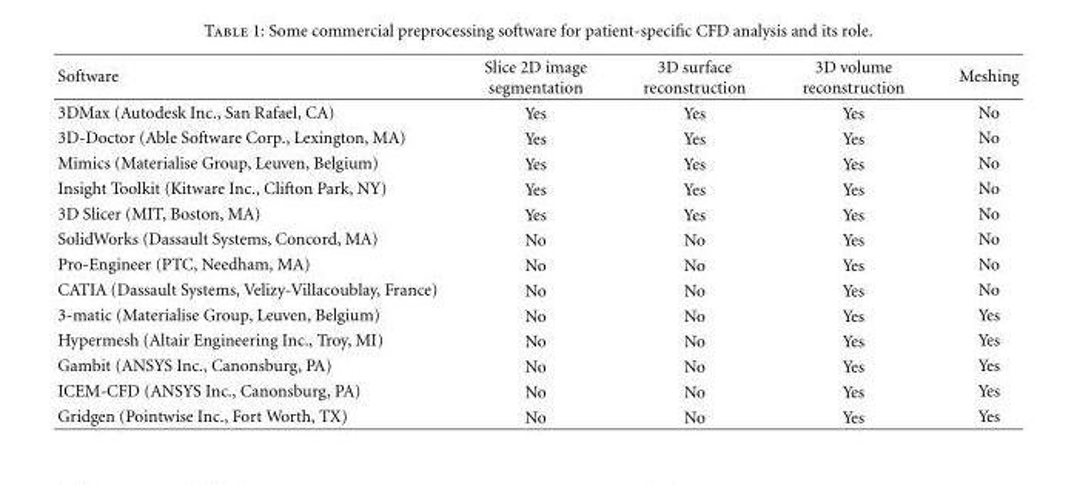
<table><thead><tr><td>Software</td><td>Slice 2D image segmentation</td><td>3D surface reconstruction</td><td>3D volume reconstruction</td><td>Meshing</td></tr></thead><tbody><tr><td>3DMax (Autodesk Inc., San Rafael, CA)</td><td>Yes</td><td>Yes</td><td>Yes</td><td>No</td></tr><tr><td>3D-Doctor (Able Software Corp., Lexington, MA)</td><td>Yes</td><td>Yes</td><td>Yes</td><td>No</td></tr><tr><td>Mimics (Materialise Group, Leuven, Belgium)</td><td>Yes</td><td>Yes</td><td>Yes</td><td>No</td></tr><tr><td>Insight Toolkit (Kitware Inc., Clifton Park, NY)</td><td>Yes</td><td>Yes</td><td>Yes</td><td>No</td></tr><tr><td>3D Slicer (MIT, Boston, MA)</td><td>Yes</td><td>Yes</td><td>Yes</td><td>No</td></tr><tr><td>SolidWorks (Dassault Systems, Concord, MA)</td><td>No</td><td>No</td><td>Yes</td><td>No</td></tr><tr><td>Pro-Engineer (PTC, Needham, MA)</td><td>No</td><td>No</td><td>Yes</td><td>No</td></tr><tr><td>CATIA (Dassault Systems, Velizy-Villacoublay, France)</td><td>No</td><td>No</td><td>Yes</td><td>No</td></tr><tr><td>3-matic (Materialise Group, Leuven, Belgium)</td><td>No</td><td>No</td><td>Yes</td><td>Yes</td></tr><tr><td>Hypermesh (Altair Engineering Inc., Troy, MI)</td><td>No</td><td>No</td><td>Yes</td><td>Yes</td></tr><tr><td>Gambit (ANSYS Inc., Canonsburg, PA)</td><td>No</td><td>No</td><td>Yes</td><td>Yes</td></tr><tr><td>ICEM-CFD (ANSYS Inc., Canonsburg, PA)</td><td>No</td><td>No</td><td>Yes</td><td>Yes</td></tr><tr><td>Gridgen (Pointwise Inc., Fort Worth, TX)</td><td>No</td><td>No</td><td>Yes</td><td>Yes</td></tr></tbody></table>